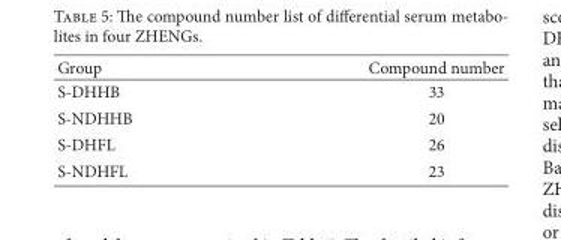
<table><thead><tr><td>Group</td><td>Compound number</td></tr></thead><tbody><tr><td>S-DHHB</td><td>33</td></tr><tr><td>S-NDHHB</td><td>20</td></tr><tr><td>S-DHFL</td><td>26</td></tr><tr><td>S-NDHFL</td><td>23</td></tr></tbody></table>